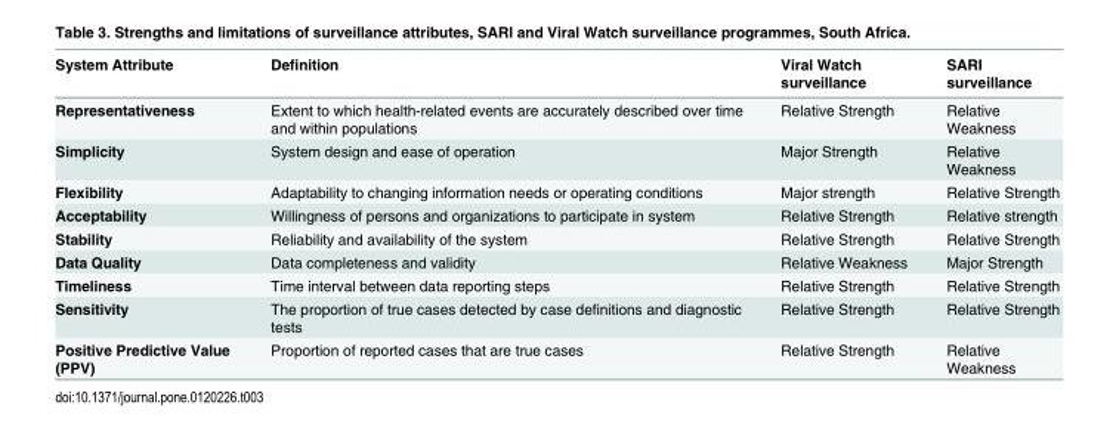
<table><thead><tr><td>System Attribute</td><td>Definition</td><td>Viral Watch surveillance</td><td>SARI surveillance</td></tr></thead><tbody><tr><td>Representativeness</td><td>Extent to which health-related events are accurately described over time and within populations</td><td>Relative Strength</td><td>Relative Weakness</td></tr><tr><td>Simplicity</td><td>System design and ease of operation</td><td>Major Strength</td><td>Relative Weakness</td></tr><tr><td>Flexibility</td><td>Adaptability to changing information needs or operating conditions</td><td>Major strength</td><td>Relative Strength</td></tr><tr><td>Acceptability</td><td>Willingness of persons and organizations to participate in system</td><td>Relative Strength</td><td>Relative strength</td></tr><tr><td>Stability</td><td>Reliability and availability of the system</td><td>Relative Strength</td><td>Relative Strength</td></tr><tr><td>Data Quality</td><td>Data completeness and validity</td><td>Relative Weakness</td><td>Major Strength</td></tr><tr><td>Timeliness</td><td>Time interval between data reporting steps</td><td>Relative Strength</td><td>Relative Strength</td></tr><tr><td>Sensitivity</td><td>The proportion of true cases detected by case definitions and diagnostic tests</td><td>Relative Strength</td><td>Relative Strength</td></tr><tr><td>Positive Predictive Value (PPV)</td><td>Proportion of reported cases that are true cases</td><td>Relative Strength</td><td>Relative Weakness</td></tr></tbody></table>